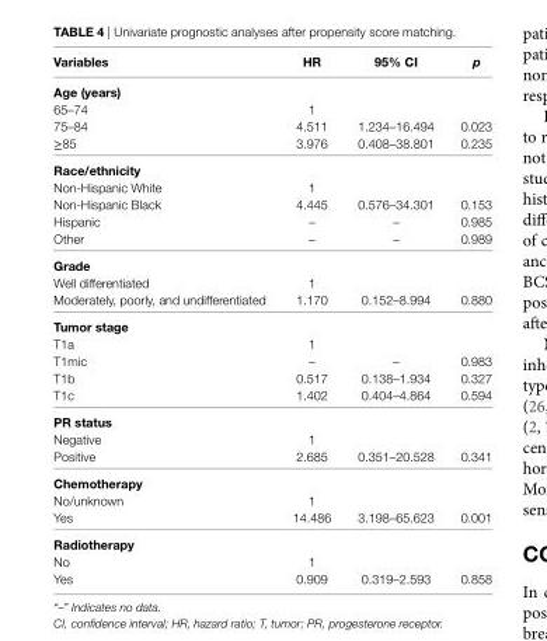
<table><thead><tr><td>Variables</td><td>hr</td><td>95% ci</td><td>p</td></tr></thead><tbody><tr><td colspan="4">age (years)</td></tr><tr><td>65–74</td><td>1</td><td></td><td></td></tr><tr><td>75–84</td><td>4.511</td><td>1.234–16.494</td><td>0.023</td></tr><tr><td>≥85</td><td>3.976</td><td>0.408–38.801</td><td>0.235</td></tr><tr><td colspan="4">race/ethnicity</td></tr><tr><td>Non-Hispanic White</td><td>1</td><td></td><td></td></tr><tr><td>Non-Hispanic Black</td><td>4.445</td><td>0.576–34.301</td><td>0.153</td></tr><tr><td>Hispanic</td><td>–</td><td>–</td><td>0.985</td></tr><tr><td>Other</td><td>–</td><td>–</td><td>0.989</td></tr><tr><td colspan="4">grade</td></tr><tr><td>Well differentiated</td><td>1</td><td></td><td></td></tr><tr><td>Moderately, poorly, and undifferentiated</td><td>1.170</td><td>0.152–8.994</td><td>0.880</td></tr><tr><td colspan="4">Tumor stage</td></tr><tr><td>T1a</td><td>1</td><td></td><td></td></tr><tr><td>T1mic</td><td>–</td><td>–</td><td>0.983</td></tr><tr><td>T1b</td><td>0.517</td><td>0.138–1.934</td><td>0.327</td></tr><tr><td>T1c</td><td>1.402</td><td>0.404–4.864</td><td>0.594</td></tr><tr><td colspan="4">Pr status</td></tr><tr><td>Negative</td><td>1</td><td></td><td></td></tr><tr><td>Positive</td><td>2.685</td><td>0.351–20.528</td><td>0.341</td></tr><tr><td colspan="4">chemotherapy</td></tr><tr><td>No/unknown</td><td>1</td><td></td><td></td></tr><tr><td>Yes</td><td>14.486</td><td>3.198–65.623</td><td>0.001</td></tr><tr><td colspan="4">radiotherapy</td></tr><tr><td>No</td><td>1</td><td></td><td></td></tr><tr><td>Yes</td><td>0.909</td><td>0.319–2.593</td><td>0.858</td></tr></tbody></table>